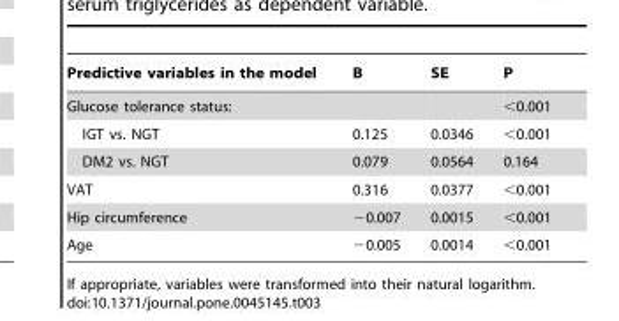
<table><thead><tr><td>Predictive variables in the model</td><td>B</td><td>SE</td><td>P</td></tr></thead><tbody><tr><td>Glucose tolerance status:</td><td></td><td></td><td>&lt;0.001</td></tr><tr><td>IGT vs. NGT</td><td>0.125</td><td>0.0346</td><td>&lt;0.001</td></tr><tr><td>DM2 vs. NGT</td><td>0.079</td><td>0.0564</td><td>0.164</td></tr><tr><td>VAT</td><td>0.316</td><td>0.0377</td><td>&lt;0.001</td></tr><tr><td>Hip circumference</td><td>−0.007</td><td>0.0015</td><td>&lt;0.001</td></tr><tr><td>Age</td><td>−0.005</td><td>0.0014</td><td>&lt;0.001</td></tr></tbody></table>